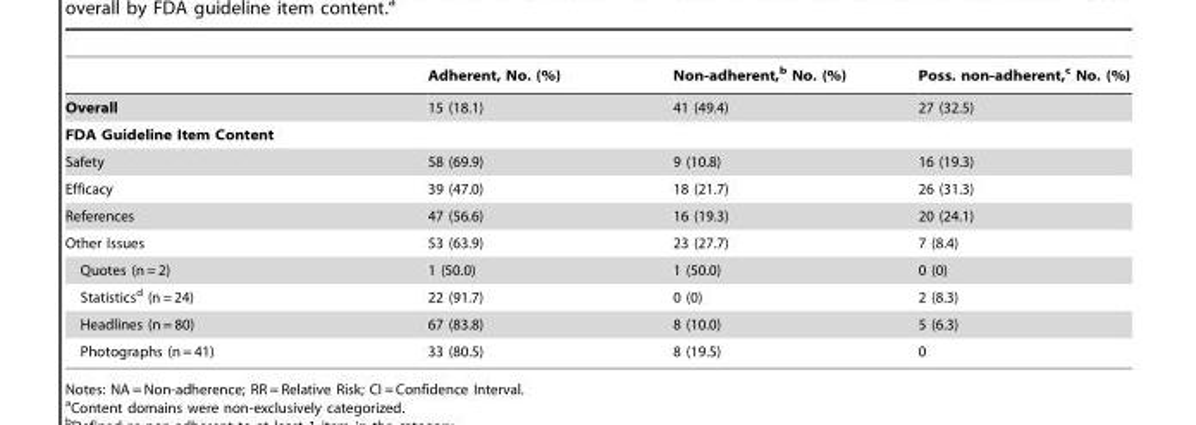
<table><thead><tr><td></td><td>Adherent, No. (%)</td><td>Non-adherent,<sup>b</sup> No. (%)</td><td>Poss. non-adherent,<sup>c</sup> No. (%)</td></tr></thead><tbody><tr><td>Overall</td><td>15 (18.1)</td><td>41 (49.4)</td><td>27 (32.5)</td></tr><tr><td colspan="4">FDA Guideline Item Content</td></tr><tr><td>Safety</td><td>58 (69.9)</td><td>9 (10.8)</td><td>16 (19.3)</td></tr><tr><td>Efficacy</td><td>39 (47.0)</td><td>18 (21.7)</td><td>26 (31.3)</td></tr><tr><td>References</td><td>47 (56.6)</td><td>16 (19.3)</td><td>20 (24.1)</td></tr><tr><td>Other Issues</td><td>53 (63.9)</td><td>23 (27.7)</td><td>7 (8.4)</td></tr><tr><td>Quotes (n = 2)</td><td>1 (50.0)</td><td>1 (50.0)</td><td>0 (0)</td></tr><tr><td>Statistics<sup>d</sup> (n = 24)</td><td>22 (91.7)</td><td>0 (0)</td><td>2 (8.3)</td></tr><tr><td>Headlines (n = 80)</td><td>67 (83.8)</td><td>8 (10.0)</td><td>5 (6.3)</td></tr><tr><td>Photographs (n = 41)</td><td>33 (80.5)</td><td>8 (19.5)</td><td>0</td></tr></tbody></table>